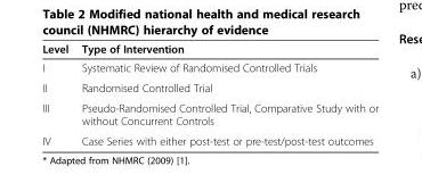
<table><thead><tr><td>Level</td><td>Type of Intervention</td></tr></thead><tbody><tr><td>I</td><td>Systematic Review of Randomised Controlled Trials</td></tr><tr><td>II</td><td>Randomised Controlled Trial</td></tr><tr><td>III</td><td>Pseudo-Randomised Controlled Trial, Comparative Study with or without Concurrent Controls</td></tr><tr><td>IV</td><td>Case Series with either post-test or pre-test/post-test outcomes</td></tr></tbody></table>